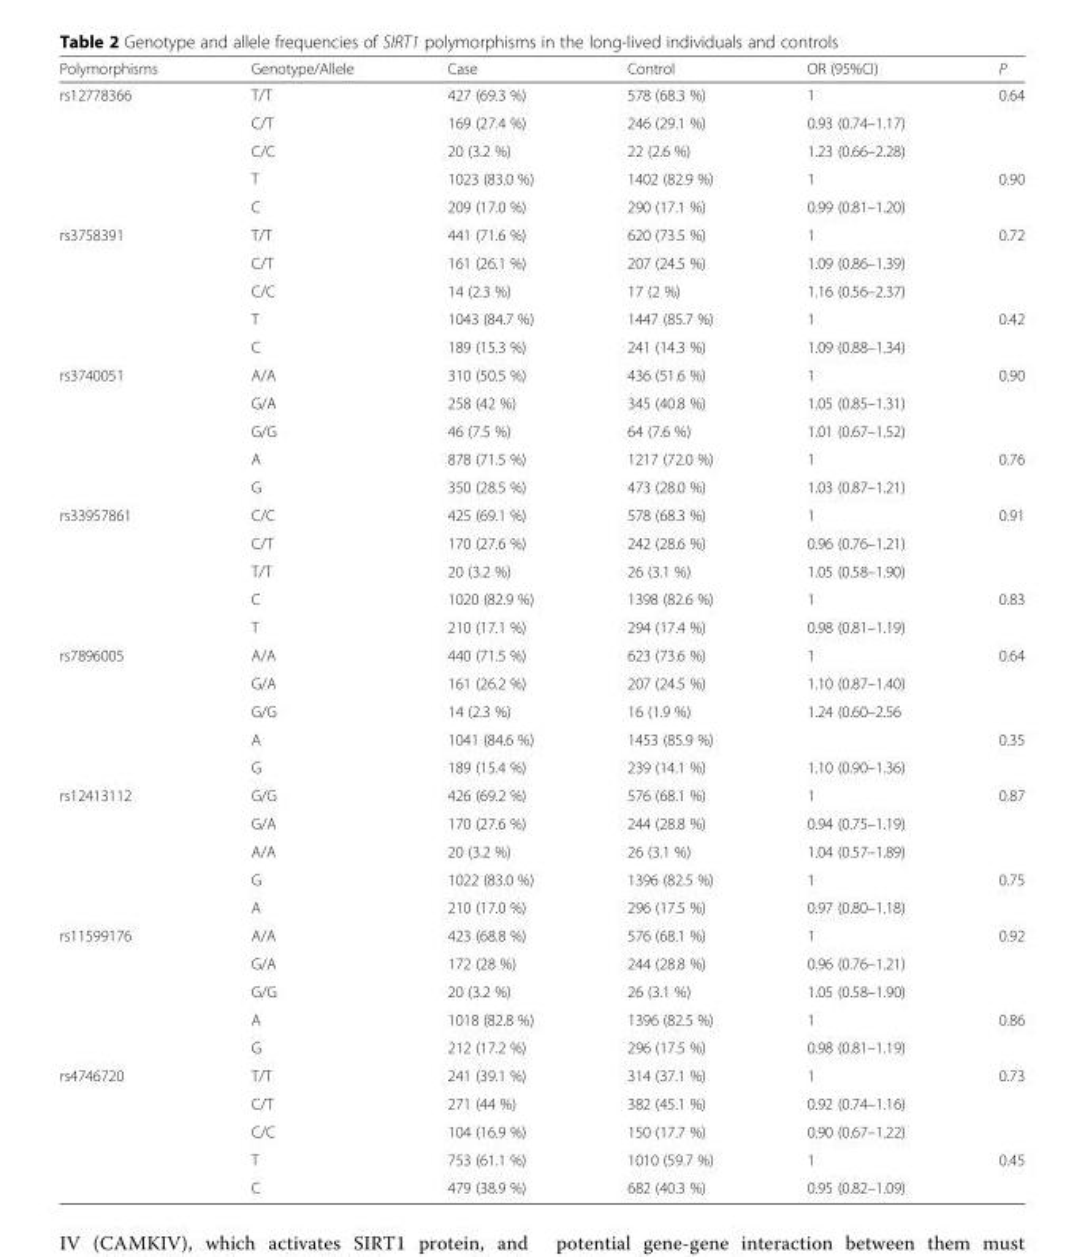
<table><thead><tr><td>Polymorphisms</td><td>Genotype/Allele</td><td>Case</td><td>Control</td><td>OR (95%CI)</td><td>P</td></tr></thead><tbody><tr><td rowspan="5">rs12778366</td><td>T/T</td><td>427 (69.3 %)</td><td>578 (68.3 %)</td><td>1</td><td rowspan="3">0.64</td></tr><tr><td>C/T</td><td>169 (27.4 %)</td><td>246 (29.1 %)</td><td>0.93 (0.74–1.17)</td></tr><tr><td>C/C</td><td>20 (3.2 %)</td><td>22 (2.6 %)</td><td>1.23 (0.66–2.28)</td></tr><tr><td>T</td><td>1023 (83.0 %)</td><td>1402 (82.9 %)</td><td>1</td><td>0.90</td></tr><tr><td>C</td><td>209 (17.0 %)</td><td>290 (17.1 %)</td><td>0.99 (0.81–1.20)</td><td></td></tr><tr><td rowspan="5">rs3758391</td><td>T/T</td><td>441 (71.6 %)</td><td>620 (73.5 %)</td><td>1</td><td rowspan="3">0.72</td></tr><tr><td>C/T</td><td>161 (26.1 %)</td><td>207 (24.5 %)</td><td>1.09 (0.86–1.39)</td></tr><tr><td>C/C</td><td>14 (2.3 %)</td><td>17 (2 %)</td><td>1.16 (0.56–2.37)</td></tr><tr><td>T</td><td>1043 (84.7 %)</td><td>1447 (85.7 %)</td><td>1</td><td>0.42</td></tr><tr><td>C</td><td>189 (15.3 %)</td><td>241 (14.3 %)</td><td>1.09 (0.88–1.34)</td><td></td></tr><tr><td rowspan="5">rs3740051</td><td>A/A</td><td>310 (50.5 %)</td><td>436 (51.6 %)</td><td>1</td><td rowspan="3">0.90</td></tr><tr><td>G/A</td><td>258 (42 %)</td><td>345 (40.8 %)</td><td>1.05 (0.85–1.31)</td></tr><tr><td>G/G</td><td>46 (7.5 %)</td><td>64 (7.6 %)</td><td>1.01 (0.67–1.52)</td></tr><tr><td>A</td><td>878 (71.5 %)</td><td>1217 (72.0 %)</td><td>1</td><td>0.76</td></tr><tr><td>G</td><td>350 (28.5 %)</td><td>473 (28.0 %)</td><td>1.03 (0.87–1.21)</td><td></td></tr><tr><td rowspan="5">rs33957861</td><td>C/C</td><td>425 (69.1 %)</td><td>578 (68.3 %)</td><td>1</td><td rowspan="3">0.91</td></tr><tr><td>C/T</td><td>170 (27.6 %)</td><td>242 (28.6 %)</td><td>0.96 (0.76–1.21)</td></tr><tr><td>T/T</td><td>20 (3.2 %)</td><td>26 (3.1 %)</td><td>1.05 (0.58–1.90)</td></tr><tr><td>C</td><td>1020 (82.9 %)</td><td>1398 (82.6 %)</td><td>1</td><td>0.83</td></tr><tr><td>T</td><td>210 (17.1 %)</td><td>294 (17.4 %)</td><td>0.98 (0.81–1.19)</td><td></td></tr><tr><td rowspan="5">rs7896005</td><td>A/A</td><td>440 (71.5 %)</td><td>623 (73.6 %)</td><td>1</td><td rowspan="3">0.64</td></tr><tr><td>G/A</td><td>161 (26.2 %)</td><td>207 (24.5 %)</td><td>1.10 (0.87–1.40)</td></tr><tr><td>G/G</td><td>14 (2.3 %)</td><td>16 (1.9 %)</td><td>1.24 (0.60–2.56</td></tr><tr><td>A</td><td>1041 (84.6 %)</td><td>1453 (85.9 %)</td><td></td><td>0.35</td></tr><tr><td>G</td><td>189 (15.4 %)</td><td>239 (14.1 %)</td><td>1.10 (0.90–1.36)</td><td></td></tr><tr><td rowspan="5">rs12413112</td><td>G/G</td><td>426 (69.2 %)</td><td>576 (68.1 %)</td><td>1</td><td rowspan="3">0.87</td></tr><tr><td>G/A</td><td>170 (27.6 %)</td><td>244 (28.8 %)</td><td>0.94 (0.75–1.19)</td></tr><tr><td>A/A</td><td>20 (3.2 %)</td><td>26 (3.1 %)</td><td>1.04 (0.57–1.89)</td></tr><tr><td>G</td><td>1022 (83.0 %)</td><td>1396 (82.5 %)</td><td>1</td><td>0.75</td></tr><tr><td>A</td><td>210 (17.0 %)</td><td>296 (17.5 %)</td><td>0.97 (0.80–1.18)</td><td></td></tr><tr><td rowspan="5">rs11599176</td><td>A/A</td><td>423 (68.8 %)</td><td>576 (68.1 %)</td><td>1</td><td rowspan="3">0.92</td></tr><tr><td>G/A</td><td>172 (28 %)</td><td>244 (28.8 %)</td><td>0.96 (0.76–1.21)</td></tr><tr><td>G/G</td><td>20 (3.2 %)</td><td>26 (3.1 %)</td><td>1.05 (0.58–1.90)</td></tr><tr><td>A</td><td>1018 (82.8 %)</td><td>1396 (82.5 %)</td><td>1</td><td>0.86</td></tr><tr><td>G</td><td>212 (17.2 %)</td><td>296 (17.5 %)</td><td>0.98 (0.81–1.19)</td><td></td></tr><tr><td rowspan="5">rs4746720</td><td>T/T</td><td>241 (39.1 %)</td><td>314 (37.1 %)</td><td>1</td><td rowspan="3">0.73</td></tr><tr><td>C/T</td><td>271 (44 %)</td><td>382 (45.1 %)</td><td>0.92 (0.74–1.16)</td></tr><tr><td>C/C</td><td>104 (16.9 %)</td><td>150 (17.7 %)</td><td>0.90 (0.67–1.22)</td></tr><tr><td>T</td><td>753 (61.1 %)</td><td>1010 (59.7 %)</td><td>1</td><td>0.45</td></tr><tr><td>C</td><td>479 (38.9 %)</td><td>682 (40.3 %)</td><td>0.95 (0.82–1.09)</td><td></td></tr></tbody></table>